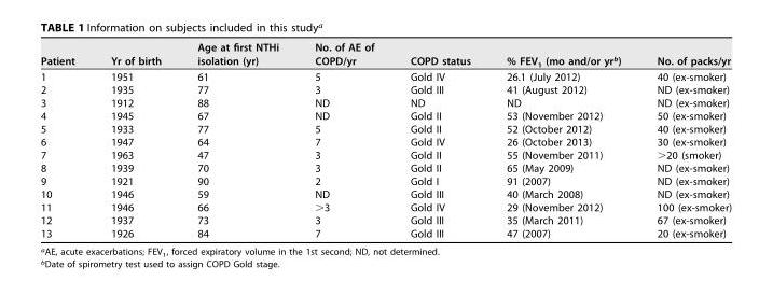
<table><thead><tr><td>Patient</td><td>Yr of birth</td><td>Age at first NTHi isolation (yr)</td><td>No. of AE of COPD/yr</td><td>COPD status</td><td>% FEV<sub>1</sub> (mo and/or yr<sup>b</sup>)</td><td>No. of packs/yr</td></tr></thead><tbody><tr><td>1</td><td>1951</td><td>61</td><td>5</td><td>Gold IV</td><td>26.1 (July 2012)</td><td>40 (ex-smoker)</td></tr><tr><td>2</td><td>1935</td><td>77</td><td>3</td><td>Gold III</td><td>41 (August 2012)</td><td>ND (ex-smoker)</td></tr><tr><td>3</td><td>1912</td><td>88</td><td>ND</td><td>ND</td><td>ND</td><td>ND (ex-smoker)</td></tr><tr><td>4</td><td>1945</td><td>67</td><td>ND</td><td>Gold II</td><td>53 (November 2012)</td><td>50 (ex-smoker)</td></tr><tr><td>5</td><td>1933</td><td>77</td><td>5</td><td>Gold II</td><td>52 (October 2012)</td><td>40 (ex-smoker)</td></tr><tr><td>6</td><td>1947</td><td>64</td><td>7</td><td>Gold IV</td><td>26 (October 2013)</td><td>30 (ex-smoker)</td></tr><tr><td>7</td><td>1963</td><td>47</td><td>3</td><td>Gold II</td><td>55 (November 2011)</td><td>&gt;20 (smoker)</td></tr><tr><td>8</td><td>1939</td><td>70</td><td>3</td><td>Gold II</td><td>65 (May 2009)</td><td>ND (ex-smoker)</td></tr><tr><td>9</td><td>1921</td><td>90</td><td>2</td><td>Gold I</td><td>91 (2007)</td><td>ND (ex-smoker)</td></tr><tr><td>10</td><td>1946</td><td>59</td><td>ND</td><td>Gold III</td><td>40 (March 2008)</td><td>ND (ex-smoker)</td></tr><tr><td>11</td><td>1946</td><td>66</td><td>&gt;3</td><td>Gold IV</td><td>29 (November 2012)</td><td>100 (ex-smoker)</td></tr><tr><td>12</td><td>1937</td><td>73</td><td>3</td><td>Gold III</td><td>35 (March 2011)</td><td>67 (ex-smoker)</td></tr><tr><td>13</td><td>1926</td><td>84</td><td>7</td><td>Gold III</td><td>47 (2007)</td><td>20 (ex-smoker)</td></tr></tbody></table>